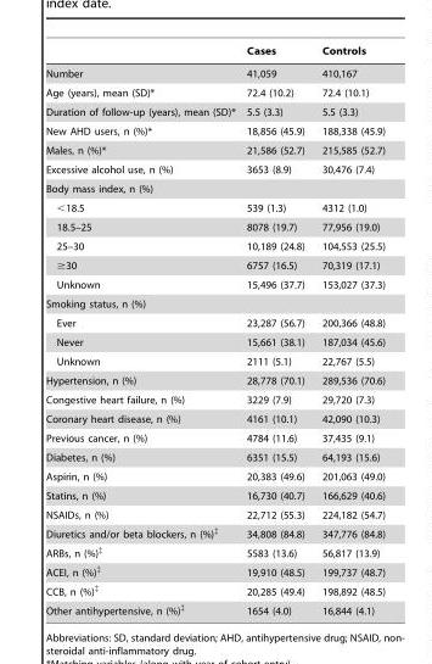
<table><thead><tr><td></td><td>Cases</td><td>Controls</td></tr></thead><tbody><tr><td>Number</td><td>41,059</td><td>410,167</td></tr><tr><td>Age (years), mean (SD)*</td><td>72.4 (10.2)</td><td>72.4 (10.1)</td></tr><tr><td>Duration of follow-up (years), mean (SD)*</td><td>5.5 (3.3)</td><td>5.5 (3.3)</td></tr><tr><td>New AHD users, n (%)*</td><td>18,856 (45.9)</td><td>188,338 (45.9)</td></tr><tr><td>Males, n (%)*</td><td>21,586 (52.7)</td><td>215,585 (52.7)</td></tr><tr><td>Excessive alcohol use, n (%)</td><td>3653 (8.9)</td><td>30,476 (7.4)</td></tr><tr><td colspan="3">Body mass index, n (%)</td></tr><tr><td>&lt;18.5</td><td>539 (1.3)</td><td>4312 (1.0)</td></tr><tr><td>18.5–25</td><td>8078 (19.7)</td><td>77,956 (19.0)</td></tr><tr><td>25–30</td><td>10,189 (24.8)</td><td>104,553 (25.5)</td></tr><tr><td>≥30</td><td>6757 (16.5)</td><td>70,319 (17.1)</td></tr><tr><td>Unknown</td><td>15,496 (37.7)</td><td>153,027 (37.3)</td></tr><tr><td colspan="3">Smoking status, n (%)</td></tr><tr><td>Ever</td><td>23,287 (56.7)</td><td>200,366 (48.8)</td></tr><tr><td>Never</td><td>15,661 (38.1)</td><td>187,034 (45.6)</td></tr><tr><td>Unknown</td><td>2111 (5.1)</td><td>22,767 (5.5)</td></tr><tr><td>Hypertension, n (%)</td><td>28,778 (70.1)</td><td>289,536 (70.6)</td></tr><tr><td>Congestive heart failure, n (%)</td><td>3229 (7.9)</td><td>29,720 (7.3)</td></tr><tr><td>Coronary heart disease, n (%)</td><td>4161 (10.1)</td><td>42,090 (10.3)</td></tr><tr><td>Previous cancer, n (%)</td><td>4784 (11.6)</td><td>37,435 (9.1)</td></tr><tr><td>Diabetes, n (%)</td><td>6351 (15.5)</td><td>64,193 (15.6)</td></tr><tr><td>Aspirin, n (%)</td><td>20,383 (49.6)</td><td>201,063 (49.0)</td></tr><tr><td>Statins, n (%)</td><td>16,730 (40.7)</td><td>166,629 (40.6)</td></tr><tr><td>NSAIDs, n (%)</td><td>22,712 (55.3)</td><td>224,182 (54.7)</td></tr><tr><td>Diuretics and/or beta blockers, n (%)‡</td><td>34,808 (84.8)</td><td>347,776 (84.8)</td></tr><tr><td>ARBs, n (%)‡</td><td>5583 (13.6)</td><td>56,817 (13.9)</td></tr><tr><td>ACEI, n (%)‡</td><td>19,910 (48.5)</td><td>199,737 (48.7)</td></tr><tr><td>CCB, n (%)‡</td><td>20,285 (49.4)</td><td>198,892 (48.5)</td></tr><tr><td>Other antihypertensive, n (%)‡</td><td>1654 (4.0)</td><td>16,844 (4.1)</td></tr></tbody></table>